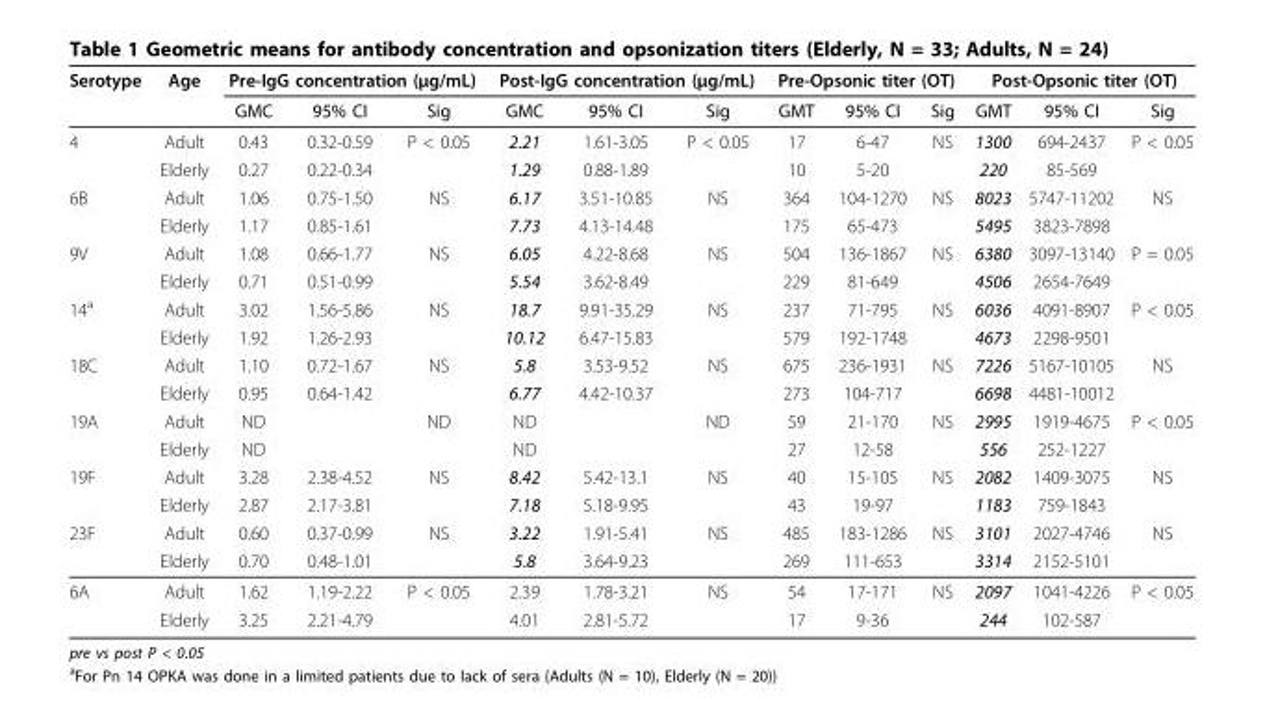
<table><thead><tr><td rowspan="2">Serotype</td><td rowspan="2">Age</td><td colspan="3">Pre-IgG concentration (μg/mL)</td><td colspan="3">Post-IgG concentration (μg/mL)</td><td colspan="3">Pre-Opsonic titer (OT)</td><td colspan="3">Post-Opsonic titer (OT)</td></tr><tr><td>GMC</td><td>95% CI</td><td>Sig</td><td>GMC</td><td>95% CI</td><td>Sig</td><td>GMT</td><td>95% CI</td><td>Sig</td><td>GMT</td><td>95% CI</td><td>Sig</td></tr></thead><tbody><tr><td rowspan="2">4</td><td>Adult</td><td>0.43</td><td>0.32-0.59</td><td>P &lt; 0.05</td><td>2.21</td><td>1.61-3.05</td><td>P &lt; 0.05</td><td>17</td><td>6-47</td><td>NS</td><td>1300</td><td>694-2437</td><td>P &lt; 0.05</td></tr><tr><td>Elderly</td><td>0.27</td><td>0.22-0.34</td><td></td><td>1.29</td><td>0.88-1.89</td><td></td><td>10</td><td>5-20</td><td></td><td>220</td><td>85-569</td><td></td></tr><tr><td rowspan="2">6B</td><td>Adult</td><td>1.06</td><td>0.75-1.50</td><td>NS</td><td>6.17</td><td>3.51-10.85</td><td>NS</td><td>364</td><td>104-1270</td><td>NS</td><td>8023</td><td>5747-11202</td><td>NS</td></tr><tr><td>Elderly</td><td>1.17</td><td>0.85-1.61</td><td></td><td>7.73</td><td>4.13-14.48</td><td></td><td>175</td><td>65-473</td><td></td><td>5495</td><td>3823-7898</td><td></td></tr><tr><td rowspan="2">9V</td><td>Adult</td><td>1.08</td><td>0.66-1.77</td><td>NS</td><td>6.05</td><td>4.22-8.68</td><td>NS</td><td>504</td><td>136-1867</td><td>NS</td><td>6380</td><td>3097-13140</td><td>P = 0.05</td></tr><tr><td>Elderly</td><td>0.71</td><td>0.51-0.99</td><td></td><td>5.54</td><td>3.62-8.49</td><td></td><td>229</td><td>81-649</td><td></td><td>4506</td><td>2654-7649</td><td></td></tr><tr><td rowspan="2">14<sup>a</sup></td><td>Adult</td><td>3.02</td><td>1.56-5.86</td><td>NS</td><td>18.7</td><td>9.91-35.29</td><td>NS</td><td>237</td><td>71-795</td><td>NS</td><td>6036</td><td>4091-8907</td><td>P &lt; 0.05</td></tr><tr><td>Elderly</td><td>1.92</td><td>1.26-2.93</td><td></td><td>10.12</td><td>6.47-15.83</td><td></td><td>579</td><td>192-1748</td><td></td><td>4673</td><td>2298-9501</td><td></td></tr><tr><td rowspan="2">18C</td><td>Adult</td><td>1.10</td><td>0.72-1.67</td><td>NS</td><td>5.8</td><td>3.53-9.52</td><td>NS</td><td>675</td><td>236-1931</td><td>NS</td><td>7226</td><td>5167-10105</td><td>NS</td></tr><tr><td>Elderly</td><td>0.95</td><td>0.64-1.42</td><td></td><td>6.77</td><td>4.42-10.37</td><td></td><td>273</td><td>104-717</td><td></td><td>6698</td><td>4481-10012</td><td></td></tr><tr><td rowspan="2">19A</td><td>Adult</td><td>ND</td><td></td><td>ND</td><td>ND</td><td></td><td>ND</td><td>59</td><td>21-170</td><td>NS</td><td>2995</td><td>1919-4675</td><td>P &lt; 0.05</td></tr><tr><td>Elderly</td><td>ND</td><td></td><td></td><td>ND</td><td></td><td></td><td>27</td><td>12-58</td><td></td><td>556</td><td>252-1227</td><td></td></tr><tr><td rowspan="2">19F</td><td>Adult</td><td>3.28</td><td>2.38-4.52</td><td>NS</td><td>8.42</td><td>5.42-13.1</td><td>NS</td><td>40</td><td>15-105</td><td>NS</td><td>2082</td><td>1409-3075</td><td>NS</td></tr><tr><td>Elderly</td><td>2.87</td><td>2.17-3.81</td><td></td><td>7.18</td><td>5.18-9.95</td><td></td><td>43</td><td>19-97</td><td></td><td>1183</td><td>759-1843</td><td></td></tr><tr><td rowspan="2">23F</td><td>Adult</td><td>0.60</td><td>0.37-0.99</td><td>NS</td><td>3.22</td><td>1.91-5.41</td><td>NS</td><td>485</td><td>183-1286</td><td>NS</td><td>3101</td><td>2027-4746</td><td>NS</td></tr><tr><td>Elderly</td><td>0.70</td><td>0.48-1.01</td><td></td><td>5.8</td><td>3.64-9.23</td><td></td><td>269</td><td>111-653</td><td></td><td>3314</td><td>2152-5101</td><td></td></tr><tr><td rowspan="2">6A</td><td>Adult</td><td>1.62</td><td>1.19-2.22</td><td>P &lt; 0.05</td><td>2.39</td><td>1.78-3.21</td><td>NS</td><td>54</td><td>17-171</td><td>NS</td><td>2097</td><td>1041-4226</td><td>P &lt; 0.05</td></tr><tr><td>Elderly</td><td>3.25</td><td>2.21-4.79</td><td></td><td>4.01</td><td>2.81-5.72</td><td></td><td>17</td><td>9-36</td><td></td><td>244</td><td>102-587</td><td></td></tr></tbody></table>